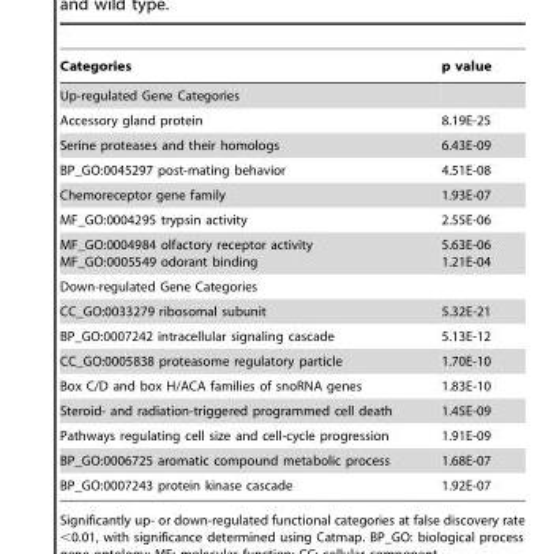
<table><thead><tr><td>Categories</td><td>p value</td></tr></thead><tbody><tr><td colspan="2">Up-regulated Gene Categories</td></tr><tr><td>Accessory gland protein</td><td>8.19E-25</td></tr><tr><td>Serine proteases and their homologs</td><td>6.43E-09</td></tr><tr><td>BP_GO:0045297 post-mating behavior</td><td>4.51E-08</td></tr><tr><td>Chemoreceptor gene family</td><td>1.93E-07</td></tr><tr><td>MF_GO:0004295 trypsin activity</td><td>2.55E-06</td></tr><tr><td>MF_GO:0004984 olfactory receptor activity MF_GO:0005549 odorant binding</td><td>5.63E-06 1.21E-04</td></tr><tr><td colspan="2">Down-regulated Gene Categories</td></tr><tr><td>CC_GO:0033279 ribosomal subunit</td><td>5.32E-21</td></tr><tr><td>BP_GO:0007242 intracellular signaling cascade</td><td>5.13E-12</td></tr><tr><td>CC_GO:0005838 proteasome regulatory particle</td><td>1.70E-10</td></tr><tr><td>Box C/D and box H/ACA families of snoRNA genes</td><td>1.83E-10</td></tr><tr><td>Steroid- and radiation-triggered programmed cell death</td><td>1.45E-09</td></tr><tr><td>Pathways regulating cell size and cell-cycle progression</td><td>1.91E-09</td></tr><tr><td>BP_GO:0006725 aromatic compound metabolic process</td><td>1.68E-07</td></tr><tr><td>BP_GO:0007243 protein kinase cascade</td><td>1.92E-07</td></tr></tbody></table>